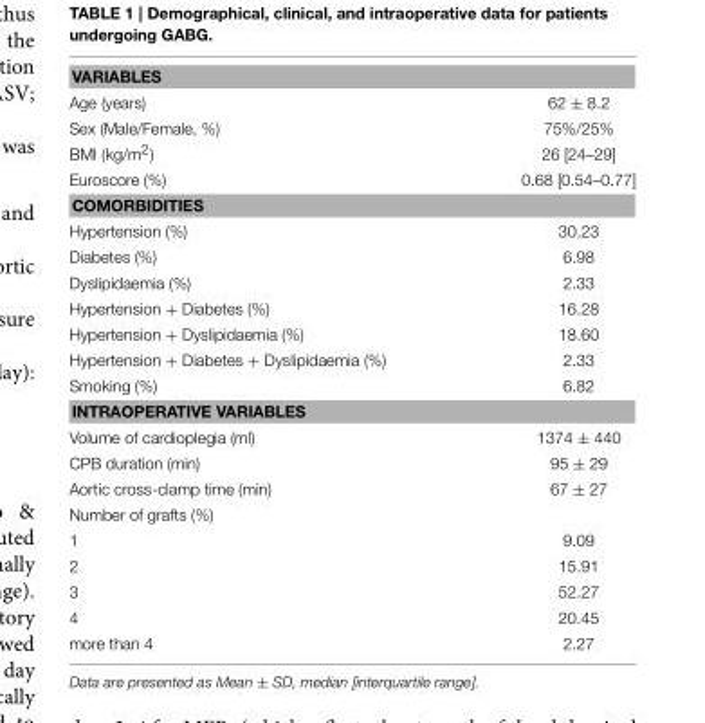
<table><tbody><tr><td colspan="2">VARIABLES</td></tr><tr><td>Age (years)</td><td>62 ± 8.2</td></tr><tr><td>Sex (Male/Female, %)</td><td>75%/25%</td></tr><tr><td>BMI (kg/m<sup>2</sup>)</td><td>26 [24–29]</td></tr><tr><td>Euroscore (%)</td><td>0.68 [0.54–0.77]</td></tr><tr><td colspan="2">COMORBIDITIES</td></tr><tr><td>Hypertension (%)</td><td>30.23</td></tr><tr><td>Diabetes (%)</td><td>6.98</td></tr><tr><td>Dyslipidaemia (%)</td><td>2.33</td></tr><tr><td>Hypertension + Diabetes (%)</td><td>16.28</td></tr><tr><td>Hypertension + Dyslipidaemia (%)</td><td>18.60</td></tr><tr><td>Hypertension + Diabetes + Dyslipidaemia (%)</td><td>2.33</td></tr><tr><td>Smoking (%)</td><td>6.82</td></tr><tr><td colspan="2">INTRAOPERATIVE VARIABLES</td></tr><tr><td>Volume of cardioplegia (ml)</td><td>1374 ± 440</td></tr><tr><td>CPB duration (min)</td><td>95 ± 29</td></tr><tr><td>Aortic cross-clamp time (min)</td><td>67 ± 27</td></tr><tr><td colspan="2">Number of grafts (%)</td></tr><tr><td>1</td><td>9.09</td></tr><tr><td>2</td><td>15.91</td></tr><tr><td>3</td><td>52.27</td></tr><tr><td>4</td><td>20.45</td></tr><tr><td>more than 4</td><td>2.27</td></tr></tbody></table>